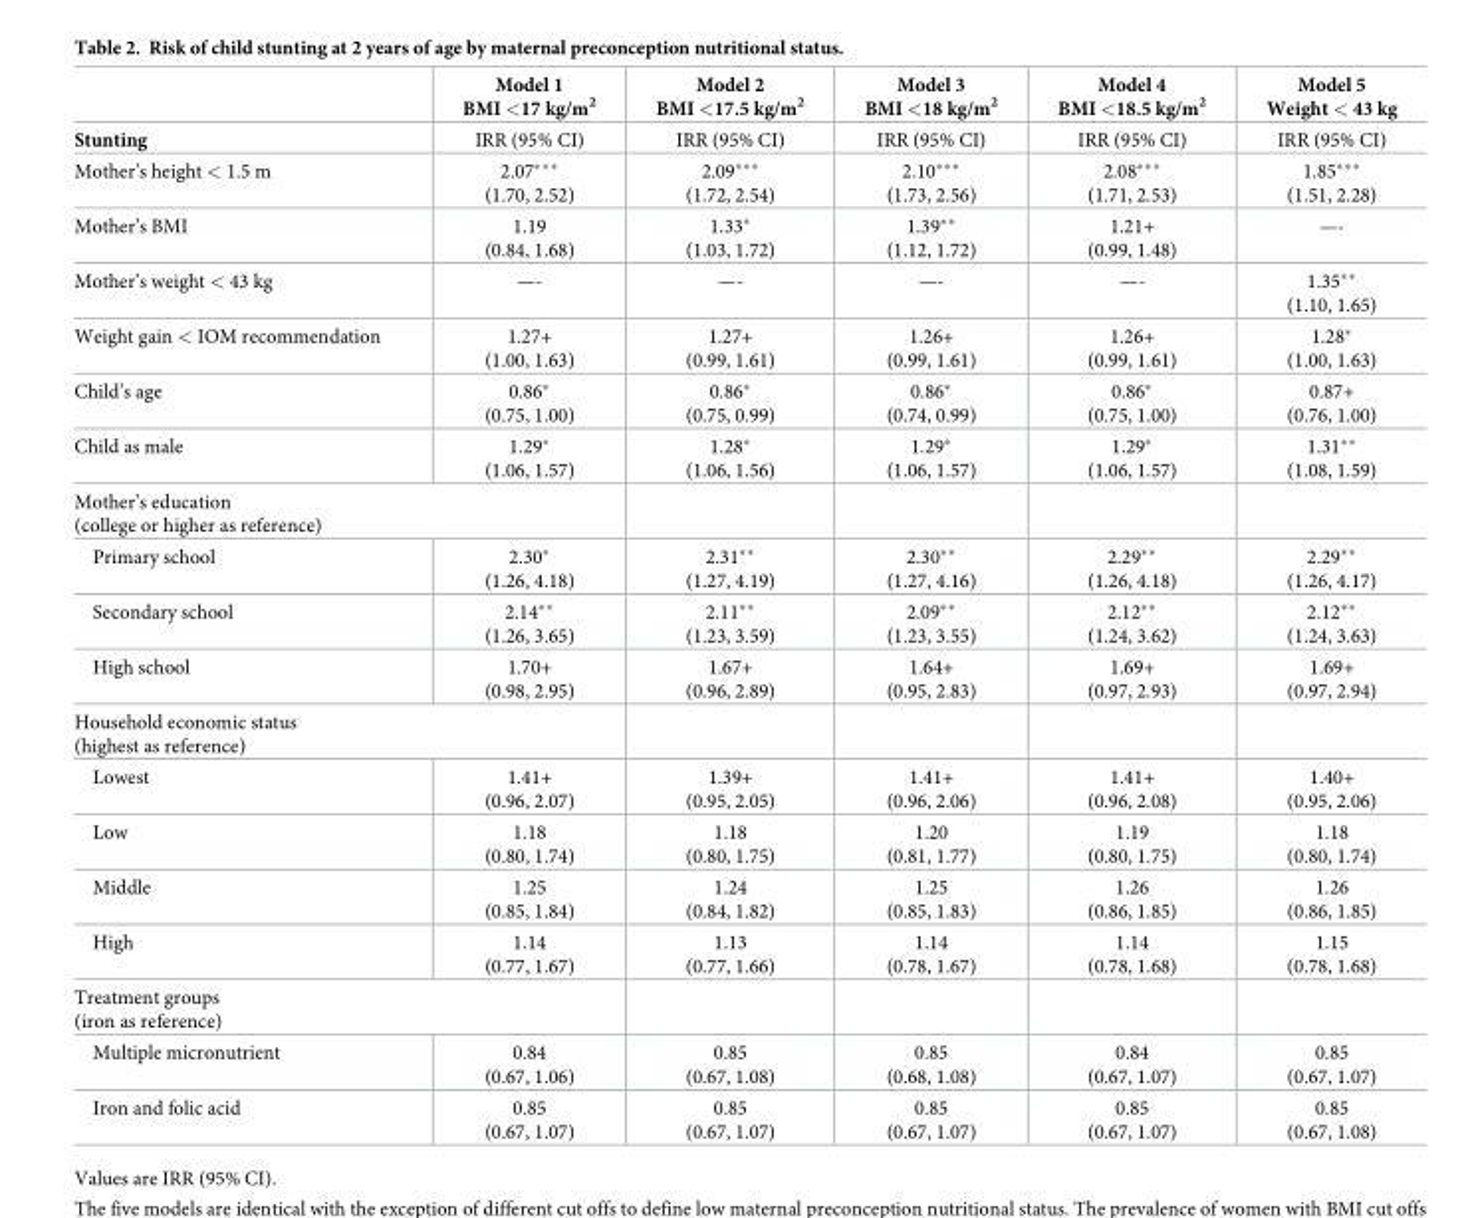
<table><thead><tr><td></td><td>Model 1 BMI &lt;17 kg/m<sup>2</sup></td><td>Model 2 BMI &lt;17.5 kg/m<sup>2</sup></td><td>Model 3 BMI &lt;18 kg/m<sup>2</sup></td><td>Model 4 BMI &lt;18.5 kg/m<sup>2</sup></td><td>Model 5 Weight &lt; 43 kg</td></tr></thead><tbody><tr><td>Stunting</td><td>IRR (95% CI)</td><td>IRR (95% CI)</td><td>IRR (95% CI)</td><td>IRR (95% CI)</td><td>IRR (95% CI)</td></tr><tr><td>Mother’s height &lt; 1.5 m</td><td>2.07*** (1.70, 2.52)</td><td>2.09*** (1.72, 2.54)</td><td>2.10*** (1.73, 2.56)</td><td>2.08*** (1.71, 2.53)</td><td>1.85*** (1.51, 2.28)</td></tr><tr><td>Mother’s BMI</td><td>1.19 (0.84, 1.68)</td><td>1.33* (1.03, 1.72)</td><td>1.39** (1.12, 1.72)</td><td>1.21+ (0.99, 1.48)</td><td>—-</td></tr><tr><td>Mother’s weight &lt; 43 kg</td><td>—-</td><td>—-</td><td>—-</td><td>—-</td><td>1.35** (1.10, 1.65)</td></tr><tr><td>Weight gain &lt; IOM recommendation</td><td>1.27+ (1.00, 1.63)</td><td>1.27+ (0.99, 1.61)</td><td>1.26+ (0.99, 1.61)</td><td>1.26+ (0.99, 1.61)</td><td>1.28* (1.00, 1.63)</td></tr><tr><td>Child’s age</td><td>0.86* (0.75, 1.00)</td><td>0.86* (0.75, 0.99)</td><td>0.86* (0.74, 0.99)</td><td>0.86* (0.75, 1.00)</td><td>0.87+ (0.76, 1.00)</td></tr><tr><td>Child as male</td><td>1.29* (1.06, 1.57)</td><td>1.28* (1.06, 1.56)</td><td>1.29* (1.06, 1.57)</td><td>1.29* (1.06, 1.57)</td><td>1.31** (1.08, 1.59)</td></tr><tr><td colspan="6">Mother’s education (college or higher as reference)</td></tr><tr><td>Primary school</td><td>2.30* (1.26, 4.18)</td><td>2.31** (1.27, 4.19)</td><td>2.30** (1.27, 4.16)</td><td>2.29** (1.26, 4.18)</td><td>2.29** (1.26, 4.17)</td></tr><tr><td>Secondary school</td><td>2.14** (1.26, 3.65)</td><td>2.11** (1.23, 3.59)</td><td>2.09** (1.23, 3.55)</td><td>2.12** (1.24, 3.62)</td><td>2.12** (1.24, 3.63)</td></tr><tr><td>High school</td><td>1.70+ (0.98, 2.95)</td><td>1.67+ (0.96, 2.89)</td><td>1.64+ (0.95, 2.83)</td><td>1.69+ (0.97, 2.93)</td><td>1.69+ (0.97, 2.94)</td></tr><tr><td colspan="6">Household economic status (highest as reference)</td></tr><tr><td>Lowest</td><td>1.41+ (0.96, 2.07)</td><td>1.39+ (0.95, 2.05)</td><td>1.41+ (0.96, 2.06)</td><td>1.41+ (0.96, 2.08)</td><td>1.40+ (0.95, 2.06)</td></tr><tr><td>Low</td><td>1.18 (0.80, 1.74)</td><td>1.18 (0.80, 1.75)</td><td>1.20 (0.81, 1.77)</td><td>1.19 (0.80, 1.75)</td><td>1.18 (0.80, 1.74)</td></tr><tr><td>Middle</td><td>1.25 (0.85, 1.84)</td><td>1.24 (0.84, 1.82)</td><td>1.25 (0.85, 1.83)</td><td>1.26 (0.86, 1.85)</td><td>1.26 (0.86, 1.85)</td></tr><tr><td>High</td><td>1.14 (0.77, 1.67)</td><td>1.13 (0.77, 1.66)</td><td>1.14 (0.78, 1.67)</td><td>1.14 (0.78, 1.68)</td><td>1.15 (0.78, 1.68)</td></tr><tr><td colspan="6">Treatment groups (iron as reference)</td></tr><tr><td>Multiple micronutrient</td><td>0.84 (0.67, 1.06)</td><td>0.85 (0.67, 1.08)</td><td>0.85 (0.68, 1.08)</td><td>0.84 (0.67, 1.07)</td><td>0.85 (0.67, 1.07)</td></tr><tr><td>Iron and folic acid</td><td>0.85 (0.67, 1.07)</td><td>0.85 (0.67, 1.07)</td><td>0.85 (0.67, 1.07)</td><td>0.85 (0.67, 1.07)</td><td>0.85 (0.67, 1.08)</td></tr></tbody></table>